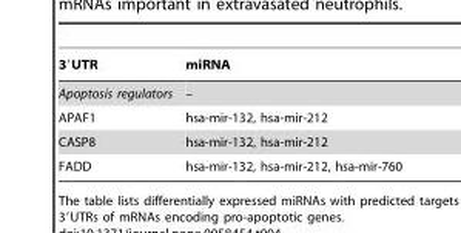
<table><thead><tr><td>3′UTR</td><td>miRNA</td></tr></thead><tbody><tr><td>Apoptosis regulators</td><td>–</td></tr><tr><td>APAF1</td><td>hsa-mir-132, hsa-mir-212</td></tr><tr><td>CASP8</td><td>hsa-mir-132, hsa-mir-212</td></tr><tr><td>FADD</td><td>hsa-mir-132, hsa-mir-212, hsa-mir-760</td></tr></tbody></table>